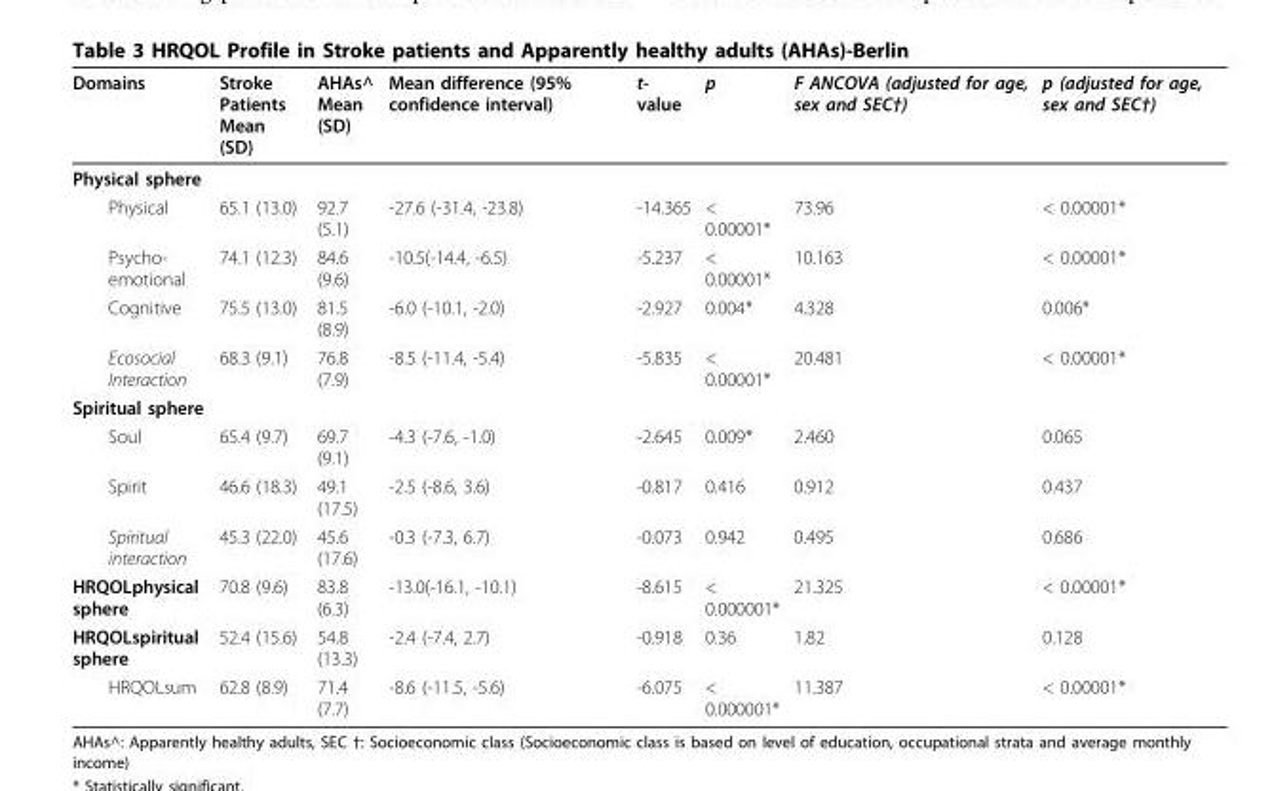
<table><thead><tr><td>Domains</td><td>Stroke Patients Mean (SD)</td><td>AHAs^ Mean (SD)</td><td>Mean difference (95% confidence interval)</td><td>t- value</td><td>p</td><td>F ANCOVA (adjusted for age, sex and SEC†)</td><td>p (adjusted for age, sex and SEC†)</td></tr></thead><tbody><tr><td colspan="8">Physical sphere</td></tr><tr><td>Physical</td><td>65.1 (13.0)</td><td>92.7 (5.1)</td><td>-27.6 (-31.4, -23.8)</td><td>-14.365</td><td>&lt; 0.00001*</td><td>73.96</td><td>&lt; 0.00001*</td></tr><tr><td>Psycho- emotional</td><td>74.1 (12.3)</td><td>84.6 (9.6)</td><td>-10.5(-14.4, -6.5)</td><td>-5.237</td><td>&lt; 0.00001*</td><td>10.163</td><td>&lt; 0.00001*</td></tr><tr><td>Cognitive</td><td>75.5 (13.0)</td><td>81.5 (8.9)</td><td>-6.0 (-10.1, -2.0)</td><td>-2.927</td><td>0.004*</td><td>4.328</td><td>0.006*</td></tr><tr><td>Ecosocial Interaction</td><td>68.3 (9.1)</td><td>76.8 (7.9)</td><td>-8.5 (-11.4, -5.4)</td><td>-5.835</td><td>&lt; 0.00001*</td><td>20.481</td><td>&lt; 0.00001*</td></tr><tr><td colspan="8">Spiritual sphere</td></tr><tr><td>Soul</td><td>65.4 (9.7)</td><td>69.7 (9.1)</td><td>-4.3 (-7.6, -1.0)</td><td>-2.645</td><td>0.009*</td><td>2.460</td><td>0.065</td></tr><tr><td>Spirit</td><td>46.6 (18.3)</td><td>49.1 (17.5)</td><td>-2.5 (-8.6, 3.6)</td><td>-0.817</td><td>0.416</td><td>0.912</td><td>0.437</td></tr><tr><td>Spiritual interaction</td><td>45.3 (22.0)</td><td>45.6 (17.6)</td><td>-0.3 (-7.3, 6.7)</td><td>-0.073</td><td>0.942</td><td>0.495</td><td>0.686</td></tr><tr><td>HRQOLphysical sphere</td><td>70.8 (9.6)</td><td>83.8 (6.3)</td><td>-13.0(-16.1, -10.1)</td><td>-8.615</td><td>&lt; 0.000001*</td><td>21.325</td><td>&lt; 0.00001*</td></tr><tr><td>HRQOLspiritual sphere</td><td>52.4 (15.6)</td><td>54.8 (13.3)</td><td>-2.4 (-7.4, 2.7)</td><td>-0.918</td><td>0.36</td><td>1.82</td><td>0.128</td></tr><tr><td>HRQOLsum</td><td>62.8 (8.9)</td><td>71.4 (7.7)</td><td>-8.6 (-11.5, -5.6)</td><td>-6.075</td><td>&lt; 0.000001*</td><td>11.387</td><td>&lt; 0.00001*</td></tr></tbody></table>